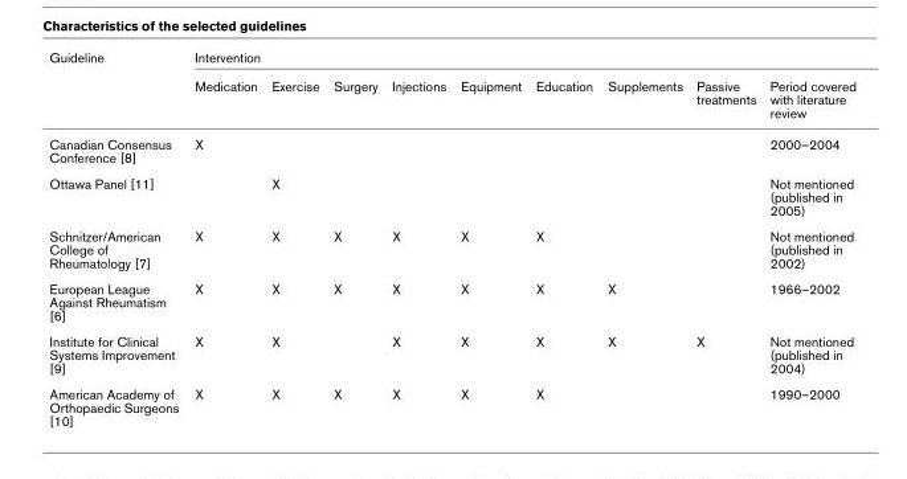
<table><thead><tr><td rowspan="2">Guideline</td><td colspan="9">Intervention</td></tr><tr><td>Medication</td><td>Exercise</td><td>Surgery</td><td>Injections</td><td>Equipment</td><td>Education</td><td>Supplements</td><td>Passive treatments</td><td>Period covered with literature review</td></tr></thead><tbody><tr><td>Canadian Consensus Conference [8]</td><td>X</td><td></td><td></td><td></td><td></td><td></td><td></td><td></td><td>2000–2004</td></tr><tr><td>Ottawa Panel [11]</td><td></td><td>X</td><td></td><td></td><td></td><td></td><td></td><td></td><td>Not mentioned (published in 2005)</td></tr><tr><td>Schnitzer/American College of Rheumatology [7]</td><td>X</td><td>X</td><td>X</td><td>X</td><td>X</td><td>X</td><td></td><td></td><td>Not mentioned (published in 2002)</td></tr><tr><td>European League Against Rheumatism [6]</td><td>X</td><td>X</td><td>X</td><td>X</td><td>X</td><td>X</td><td>X</td><td></td><td>1966–2002</td></tr><tr><td>Institute for Clinical Systems Improvement [9]</td><td>X</td><td>X</td><td></td><td>X</td><td>X</td><td>X</td><td>X</td><td>X</td><td>Not mentioned (published in 2004)</td></tr><tr><td>American Academy of Orthopaedic Surgeons [10]</td><td>X</td><td>X</td><td>X</td><td>X</td><td>X</td><td>X</td><td></td><td></td><td>1990–2000</td></tr></tbody></table>